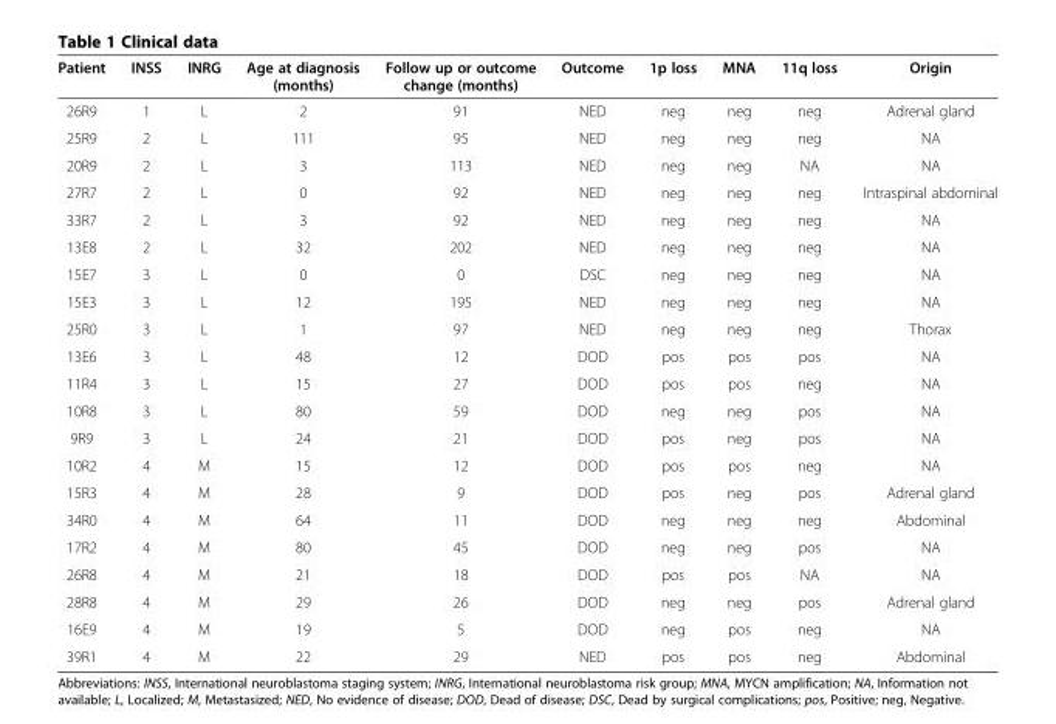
<table><thead><tr><td>Patient</td><td>INSS</td><td>INRG</td><td>Age at diagnosis (months)</td><td>Follow up or outcome change (months)</td><td>Outcome</td><td>1p loss</td><td>MNA</td><td>11q loss</td><td>Origin</td></tr></thead><tbody><tr><td>26R9</td><td>1</td><td>L</td><td>2</td><td>91</td><td>NED</td><td>neg</td><td>neg</td><td>neg</td><td>Adrenal gland</td></tr><tr><td>25R9</td><td>2</td><td>L</td><td>111</td><td>95</td><td>NED</td><td>neg</td><td>neg</td><td>neg</td><td>NA</td></tr><tr><td>20R9</td><td>2</td><td>L</td><td>3</td><td>113</td><td>NED</td><td>neg</td><td>neg</td><td>NA</td><td>NA</td></tr><tr><td>27R7</td><td>2</td><td>L</td><td>0</td><td>92</td><td>NED</td><td>neg</td><td>neg</td><td>neg</td><td>Intraspinal abdominal</td></tr><tr><td>33R7</td><td>2</td><td>L</td><td>3</td><td>92</td><td>NED</td><td>neg</td><td>neg</td><td>neg</td><td>NA</td></tr><tr><td>13E8</td><td>2</td><td>L</td><td>32</td><td>202</td><td>NED</td><td>neg</td><td>neg</td><td>neg</td><td>NA</td></tr><tr><td>15E7</td><td>3</td><td>L</td><td>0</td><td>0</td><td>DSC</td><td>neg</td><td>neg</td><td>neg</td><td>NA</td></tr><tr><td>15E3</td><td>3</td><td>L</td><td>12</td><td>195</td><td>NED</td><td>neg</td><td>neg</td><td>neg</td><td>NA</td></tr><tr><td>25R0</td><td>3</td><td>L</td><td>1</td><td>97</td><td>NED</td><td>neg</td><td>neg</td><td>neg</td><td>Thorax</td></tr><tr><td>13E6</td><td>3</td><td>L</td><td>48</td><td>12</td><td>DOD</td><td>pos</td><td>pos</td><td>pos</td><td>NA</td></tr><tr><td>11R4</td><td>3</td><td>L</td><td>15</td><td>27</td><td>DOD</td><td>pos</td><td>pos</td><td>neg</td><td>NA</td></tr><tr><td>10R8</td><td>3</td><td>L</td><td>80</td><td>59</td><td>DOD</td><td>neg</td><td>neg</td><td>pos</td><td>NA</td></tr><tr><td>9R9</td><td>3</td><td>L</td><td>24</td><td>21</td><td>DOD</td><td>pos</td><td>neg</td><td>pos</td><td>NA</td></tr><tr><td>10R2</td><td>4</td><td>M</td><td>15</td><td>12</td><td>DOD</td><td>pos</td><td>pos</td><td>neg</td><td>NA</td></tr><tr><td>15R3</td><td>4</td><td>M</td><td>28</td><td>9</td><td>DOD</td><td>pos</td><td>neg</td><td>pos</td><td>Adrenal gland</td></tr><tr><td>34R0</td><td>4</td><td>M</td><td>64</td><td>11</td><td>DOD</td><td>neg</td><td>neg</td><td>neg</td><td>Abdominal</td></tr><tr><td>17R2</td><td>4</td><td>M</td><td>80</td><td>45</td><td>DOD</td><td>neg</td><td>neg</td><td>pos</td><td>NA</td></tr><tr><td>26R8</td><td>4</td><td>M</td><td>21</td><td>18</td><td>DOD</td><td>pos</td><td>pos</td><td>NA</td><td>NA</td></tr><tr><td>28R8</td><td>4</td><td>M</td><td>29</td><td>26</td><td>DOD</td><td>neg</td><td>neg</td><td>pos</td><td>Adrenal gland</td></tr><tr><td>16E9</td><td>4</td><td>M</td><td>19</td><td>5</td><td>DOD</td><td>neg</td><td>pos</td><td>neg</td><td>NA</td></tr><tr><td>39R1</td><td>4</td><td>M</td><td>22</td><td>29</td><td>NED</td><td>pos</td><td>pos</td><td>neg</td><td>Abdominal</td></tr></tbody></table>